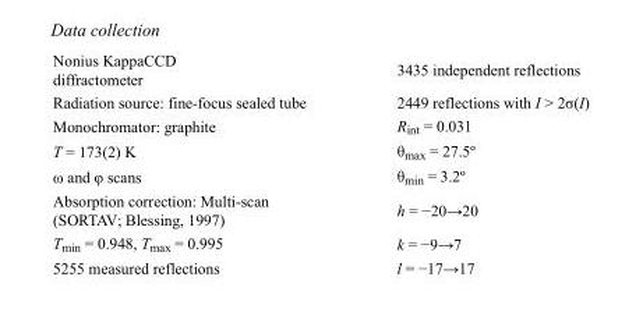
<table><tbody><tr><td>Nonius KappaCCD diffractometer</td><td>3435 independent reflections</td></tr><tr><td>Radiation source: fine-focus sealed tube</td><td>2449 reflections with I &gt; 2σ(I)</td></tr><tr><td>Monochromator: graphite</td><td>R<sub>int</sub> = 0.031</td></tr><tr><td>T = 173(2) K</td><td>θ<sub>max</sub> = 27.5º</td></tr><tr><td>ω and φ scans</td><td>θ<sub>min</sub> = 3.2º</td></tr><tr><td>Absorption correction: Multi-scan (SORTAV; Blessing, 1997)</td><td>h = −20→20</td></tr><tr><td>T<sub>min</sub> = 0.948, T<sub>max</sub> = 0.995</td><td>k = −9→7</td></tr><tr><td>5255 measured reflections</td><td>l = −17→17</td></tr></tbody></table>